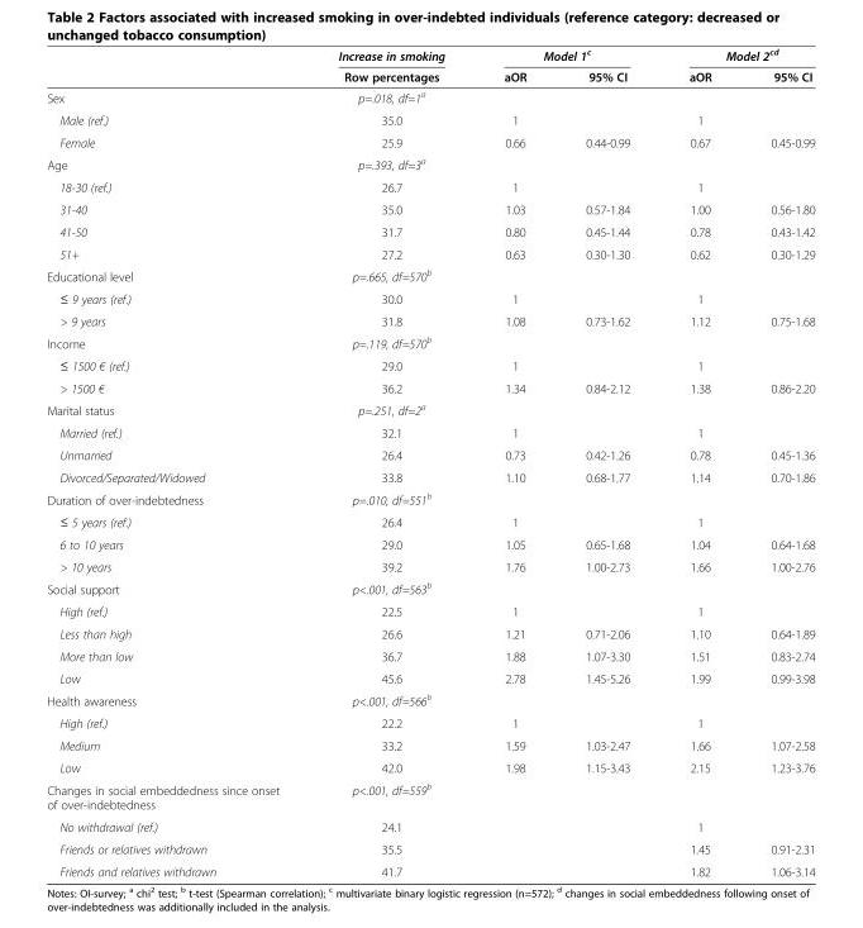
<table><thead><tr><td rowspan="2"></td><td rowspan="2">Increase in smoking Row percentages</td><td colspan="2">Model 1<sup>c</sup></td><td colspan="2">Model 2<sup>cd</sup></td></tr><tr><td>aOR</td><td>95% CI</td><td>aOR</td><td>95% CI</td></tr></thead><tbody><tr><td>Sex</td><td>p=.018, df=1<sup>a</sup></td><td></td><td></td><td></td><td></td></tr><tr><td>Male (ref.)</td><td>35.0</td><td>1</td><td></td><td>1</td><td></td></tr><tr><td>Female</td><td>25.9</td><td>0.66</td><td>0.44-0.99</td><td>0.67</td><td>0.45-0.99</td></tr><tr><td>Age</td><td>p=.393, df=3<sup>a</sup></td><td></td><td></td><td></td><td></td></tr><tr><td>18-30 (ref.)</td><td>26.7</td><td>1</td><td></td><td>1</td><td></td></tr><tr><td>31-40</td><td>35.0</td><td>1.03</td><td>0.57-1.84</td><td>1.00</td><td>0.56-1.80</td></tr><tr><td>41-50</td><td>31.7</td><td>0.80</td><td>0.45-1.44</td><td>0.78</td><td>0.43-1.42</td></tr><tr><td>51+</td><td>27.2</td><td>0.63</td><td>0.30-1.30</td><td>0.62</td><td>0.30-1.29</td></tr><tr><td>Educational level</td><td>p=.665, df=570<sup>b</sup></td><td></td><td></td><td></td><td></td></tr><tr><td>≤ 9 years (ref.)</td><td>30.0</td><td>1</td><td></td><td>1</td><td></td></tr><tr><td>&gt; 9 years</td><td>31.8</td><td>1.08</td><td>0.73-1.62</td><td>1.12</td><td>0.75-1.68</td></tr><tr><td>Income</td><td>p=.119, df=570<sup>b</sup></td><td></td><td></td><td></td><td></td></tr><tr><td>≤ 1500 € (ref.)</td><td>29.0</td><td>1</td><td></td><td>1</td><td></td></tr><tr><td>&gt; 1500 €</td><td>36.2</td><td>1.34</td><td>0.84-2.12</td><td>1.38</td><td>0.86-2.20</td></tr><tr><td>Marital status</td><td>p=.251, df=2<sup>a</sup></td><td></td><td></td><td></td><td></td></tr><tr><td>Married (ref.)</td><td>32.1</td><td>1</td><td></td><td>1</td><td></td></tr><tr><td>Unmarried</td><td>26.4</td><td>0.73</td><td>0.42-1.26</td><td>0.78</td><td>0.45-1.36</td></tr><tr><td>Divorced/Separated/Widowed</td><td>33.8</td><td>1.10</td><td>0.68-1.77</td><td>1.14</td><td>0.70-1.86</td></tr><tr><td>Duration of over-indebtedness</td><td>p=.010, df=551<sup>b</sup></td><td></td><td></td><td></td><td></td></tr><tr><td>≤ 5 years (ref.)</td><td>26.4</td><td>1</td><td></td><td>1</td><td></td></tr><tr><td>6 to 10 years</td><td>29.0</td><td>1.05</td><td>0.65-1.68</td><td>1.04</td><td>0.64-1.68</td></tr><tr><td>&gt; 10 years</td><td>39.2</td><td>1.76</td><td>1.00-2.73</td><td>1.66</td><td>1.00-2.76</td></tr><tr><td>Social support</td><td>p&lt;.001, df=563<sup>b</sup></td><td></td><td></td><td></td><td></td></tr><tr><td>High (ref.)</td><td>22.5</td><td>1</td><td></td><td>1</td><td></td></tr><tr><td>Less than high</td><td>26.6</td><td>1.21</td><td>0.71-2.06</td><td>1.10</td><td>0.64-1.89</td></tr><tr><td>More than low</td><td>36.7</td><td>1.88</td><td>1.07-3.30</td><td>1.51</td><td>0.83-2.74</td></tr><tr><td>Low</td><td>45.6</td><td>2.78</td><td>1.45-5.26</td><td>1.99</td><td>0.99-3.98</td></tr><tr><td>Health awareness</td><td>p&lt;.001, df=566<sup>b</sup></td><td></td><td></td><td></td><td></td></tr><tr><td>High (ref.)</td><td>22.2</td><td>1</td><td></td><td>1</td><td></td></tr><tr><td>Medium</td><td>33.2</td><td>1.59</td><td>1.03-2.47</td><td>1.66</td><td>1.07-2.58</td></tr><tr><td>Low</td><td>42.0</td><td>1.98</td><td>1.15-3.43</td><td>2.15</td><td>1.23-3.76</td></tr><tr><td>Changes in social embeddedness since onset of over-indebtedness</td><td>p&lt;.001, df=559<sup>b</sup></td><td></td><td></td><td></td><td></td></tr><tr><td>No withdrawal (ref.)</td><td>24.1</td><td></td><td></td><td>1</td><td></td></tr><tr><td>Friends or relatives withdrawn</td><td>35.5</td><td></td><td></td><td>1.45</td><td>0.91-2.31</td></tr><tr><td>Friends and relatives withdrawn</td><td>41.7</td><td></td><td></td><td>1.82</td><td>1.06-3.14</td></tr></tbody></table>